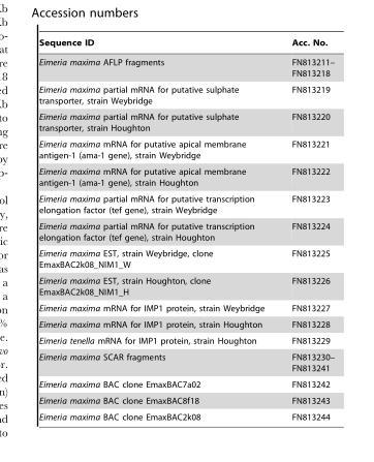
<table><thead><tr><td>Sequence ID</td><td>Acc. No.</td></tr></thead><tbody><tr><td>Eimeria maxima AFLP fragments</td><td>FN813211– FN813218</td></tr><tr><td>Eimeria maxima partial mRNA for putative sulphate transporter, strain Weybridge</td><td>FN813219</td></tr><tr><td>Eimeria maxima partial mRNA for putative sulphate transporter, strain Houghton</td><td>FN813220</td></tr><tr><td>Eimeria maxima mRNA for putative apical membrane antigen-1 (ama-1 gene), strain Weybridge</td><td>FN813221</td></tr><tr><td>Eimeria maxima mRNA for putative apical membrane antigen-1 (ama-1 gene), strain Houghton</td><td>FN813222</td></tr><tr><td>Eimeria maxima partial mRNA for putative transcription elongation factor (tef gene), strain Weybridge</td><td>FN813223</td></tr><tr><td>Eimeria maxima partial mRNA for putative transcription elongation factor (tef gene), strain Houghton</td><td>FN813224</td></tr><tr><td>Eimeria maxima EST, strain Weybridge, clone EmaxBAC2k08_NIM1_W</td><td>FN813225</td></tr><tr><td>Eimeria maxima EST, strain Houghton, clone EmaxBAC2k08_NIM1_H</td><td>FN813226</td></tr><tr><td>Eimeria maxima mRNA for IMP1 protein, strain Weybridge</td><td>FN813227</td></tr><tr><td>Eimeria maxima mRNA for IMP1 protein, strain Houghton</td><td>FN813228</td></tr><tr><td>Eimeria tenella mRNA for IMP1 protein, strain Houghton</td><td>FN813229</td></tr><tr><td>Eimeria maxima SCAR fragments</td><td>FN813230– FN813241</td></tr><tr><td>Eimeria maxima BAC clone EmaxBAC7a02</td><td>FN813242</td></tr><tr><td>Eimeria maxima BAC clone EmaxBAC8f18</td><td>FN813243</td></tr><tr><td>Eimeria maxima BAC clone EmaxBAC2k08</td><td>FN813244</td></tr></tbody></table>